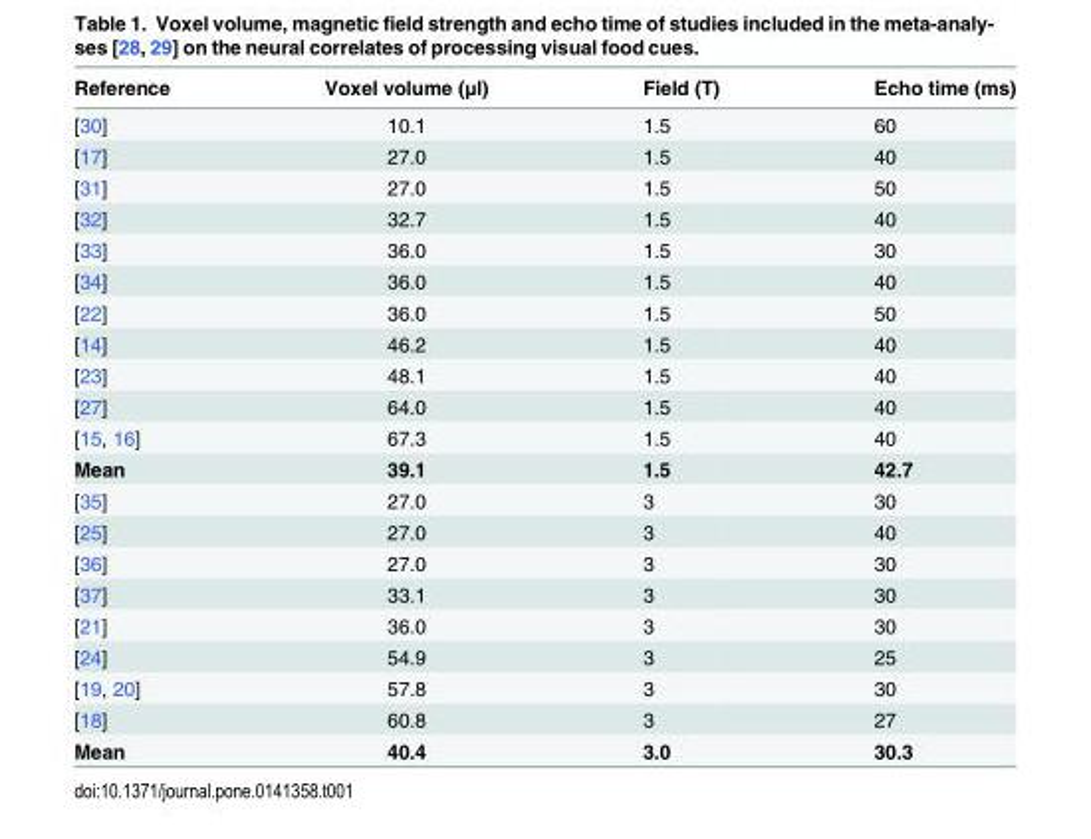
<table><thead><tr><td>Reference</td><td>Voxel volume (μl)</td><td>Field (T)</td><td>Echo time (ms)</td></tr></thead><tbody><tr><td>[30]</td><td>10.1</td><td>1.5</td><td>60</td></tr><tr><td>[17]</td><td>27.0</td><td>1.5</td><td>40</td></tr><tr><td>[31]</td><td>27.0</td><td>1.5</td><td>50</td></tr><tr><td>[32]</td><td>32.7</td><td>1.5</td><td>40</td></tr><tr><td>[33]</td><td>36.0</td><td>1.5</td><td>30</td></tr><tr><td>[34]</td><td>36.0</td><td>1.5</td><td>40</td></tr><tr><td>[22]</td><td>36.0</td><td>1.5</td><td>50</td></tr><tr><td>[14]</td><td>46.2</td><td>1.5</td><td>40</td></tr><tr><td>[23]</td><td>48.1</td><td>1.5</td><td>40</td></tr><tr><td>[27]</td><td>64.0</td><td>1.5</td><td>40</td></tr><tr><td>[15, 16]</td><td>67.3</td><td>1.5</td><td>40</td></tr><tr><td>Mean</td><td>39.1</td><td>1.5</td><td>42.7</td></tr><tr><td>[35]</td><td>27.0</td><td>3</td><td>30</td></tr><tr><td>[25]</td><td>27.0</td><td>3</td><td>40</td></tr><tr><td>[36]</td><td>27.0</td><td>3</td><td>30</td></tr><tr><td>[37]</td><td>33.1</td><td>3</td><td>30</td></tr><tr><td>[21]</td><td>36.0</td><td>3</td><td>30</td></tr><tr><td>[24]</td><td>54.9</td><td>3</td><td>25</td></tr><tr><td>[19, 20]</td><td>57.8</td><td>3</td><td>30</td></tr><tr><td>[18]</td><td>60.8</td><td>3</td><td>27</td></tr><tr><td>Mean</td><td>40.4</td><td>3.0</td><td>30.3</td></tr></tbody></table>